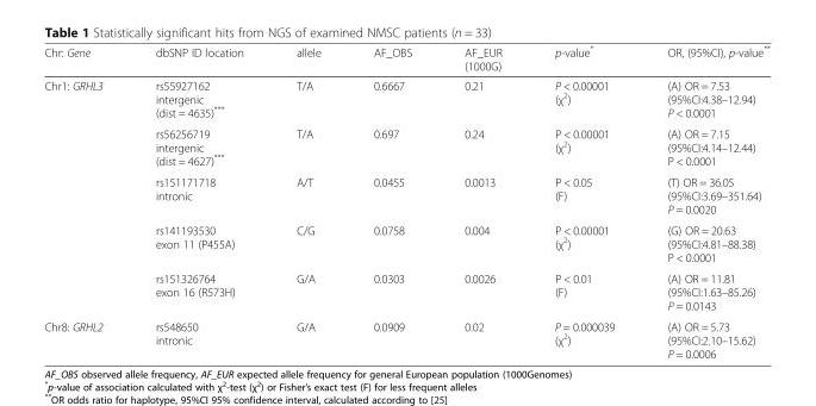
<table><thead><tr><td>Chr: Gene</td><td>dbSNP ID location</td><td>allele</td><td>AF_OBS</td><td>AF_EUR (1000G)</td><td>p-value*</td><td>OR, (95%CI), p-value**</td></tr></thead><tbody><tr><td rowspan="5">Chr1: GRHL3</td><td>rs55927162 intergenic (dist = 4635)***</td><td>T/A</td><td>0.6667</td><td>0.21</td><td>P &lt; 0.00001 (χ<sup>2</sup>)</td><td>(A) OR = 7.53 (95%CI:4.38–12.94) P &lt; 0.0001</td></tr><tr><td>rs56256719 intergenic (dist = 4627)***</td><td>T/A</td><td>0.697</td><td>0.24</td><td>P &lt; 0.00001 (χ<sup>2</sup>)</td><td>(A) OR = 7.15 (95%CI:4.14–12.44) P &lt; 0.0001</td></tr><tr><td>rs151171718 intronic</td><td>A/T</td><td>0.0455</td><td>0.0013</td><td>P &lt; 0.05 (F)</td><td>(T) OR = 36.05 (95%CI:3.69–351.64) P = 0.0020</td></tr><tr><td>rs141193530 exon 11 (P455A)</td><td>C/G</td><td>0.0758</td><td>0.004</td><td>P &lt; 0.00001 (χ<sup>2</sup>)</td><td>(G) OR = 20.63 (95%CI:4.81–88.38) P &lt; 0.0001</td></tr><tr><td>rs151326764 exon 16 (R573H)</td><td>G/A</td><td>0.0303</td><td>0.0026</td><td>P &lt; 0.01 (F)</td><td>(A) OR = 11.81 (95%CI:1.63–85.26) P = 0.0143</td></tr><tr><td>Chr8: GRHL2</td><td>rs548650 intronic</td><td>G/A</td><td>0.0909</td><td>0.02</td><td>P = 0.000039 (χ<sup>2</sup>)</td><td>(A) OR = 5.73 (95%CI:2.10–15.62) P = 0.0006</td></tr></tbody></table>